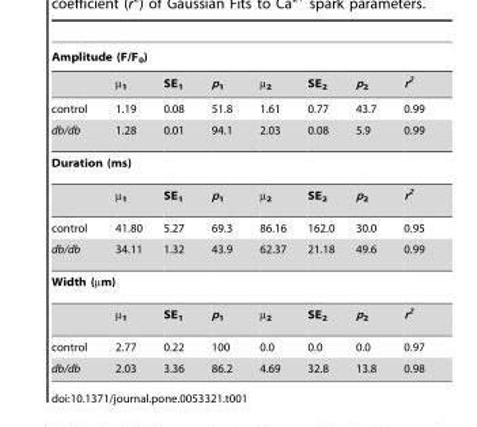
<table><thead><tr><td colspan="8">Amplitude (F/F<sub>0</sub>)</td></tr><tr><td></td><td>µ<sub>1</sub></td><td>SE<sub>1</sub></td><td>p<sub>1</sub></td><td>µ<sub>2</sub></td><td>SE<sub>2</sub></td><td>p<sub>2</sub></td><td>r<sup>2</sup></td></tr></thead><tbody><tr><td>control</td><td>1.19</td><td>0.08</td><td>51.8</td><td>1.61</td><td>0.77</td><td>43.7</td><td>0.99</td></tr><tr><td>db/db</td><td>1.28</td><td>0.01</td><td>94.1</td><td>2.03</td><td>0.08</td><td>5.9</td><td>0.99</td></tr><tr><td colspan="8">Duration (ms)</td></tr><tr><td></td><td>µ<sub>1</sub></td><td>SE<sub>1</sub></td><td>p<sub>1</sub></td><td>µ<sub>2</sub></td><td>SE<sub>2</sub></td><td>p<sub>2</sub></td><td>r<sup>2</sup></td></tr><tr><td>control</td><td>41.80</td><td>5.27</td><td>69.3</td><td>86.16</td><td>162.0</td><td>30.0</td><td>0.95</td></tr><tr><td>db/db</td><td>34.11</td><td>1.32</td><td>43.9</td><td>62.37</td><td>21.18</td><td>49.6</td><td>0.99</td></tr><tr><td colspan="8">Width (µm)</td></tr><tr><td></td><td>µ<sub>1</sub></td><td>SE<sub>1</sub></td><td>p<sub>1</sub></td><td>µ<sub>2</sub></td><td>SE<sub>2</sub></td><td>p<sub>2</sub></td><td>r<sup>2</sup></td></tr><tr><td>control</td><td>2.77</td><td>0.22</td><td>100</td><td>0.0</td><td>0.0</td><td>0.0</td><td>0.97</td></tr><tr><td>db/db</td><td>2.03</td><td>3.36</td><td>86.2</td><td>4.69</td><td>32.8</td><td>13.8</td><td>0.98</td></tr></tbody></table>